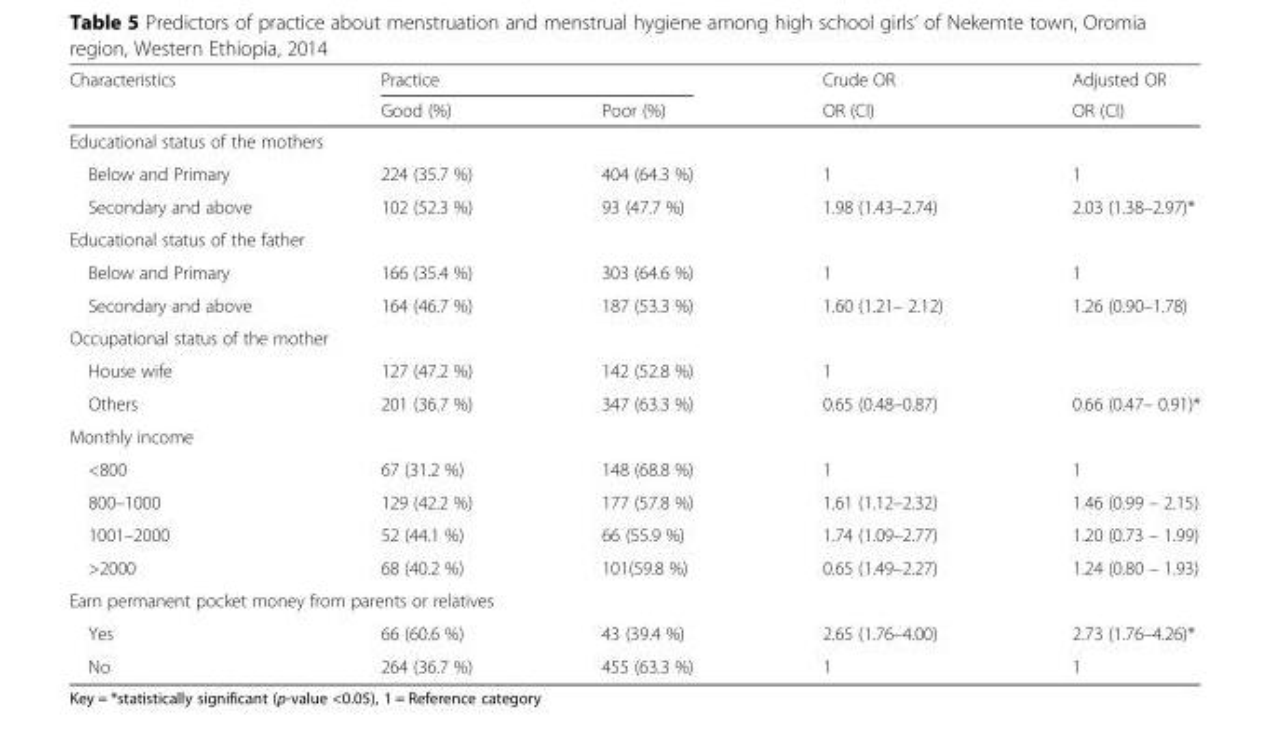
<table><thead><tr><td rowspan="2">Characteristics</td><td colspan="2">Practice</td><td rowspan="2">Crude OR OR (CI)</td><td rowspan="2">Adjusted OR OR (CI)</td></tr><tr><td>Good (%)</td><td>Poor (%)</td></tr></thead><tbody><tr><td colspan="5">Educational status of the mothers</td></tr><tr><td>Below and Primary</td><td>224 (35.7 %)</td><td>404 (64.3 %)</td><td>1</td><td>1</td></tr><tr><td>Secondary and above</td><td>102 (52.3 %)</td><td>93 (47.7 %)</td><td>1.98 (1.43–2.74)</td><td>2.03 (1.38–2.97)*</td></tr><tr><td colspan="5">Educational status of the father</td></tr><tr><td>Below and Primary</td><td>166 (35.4 %)</td><td>303 (64.6 %)</td><td>1</td><td>1</td></tr><tr><td>Secondary and above</td><td>164 (46.7 %)</td><td>187 (53.3 %)</td><td>1.60 (1.21– 2.12)</td><td>1.26 (0.90–1.78)</td></tr><tr><td colspan="5">Occupational status of the mother</td></tr><tr><td>House wife</td><td>127 (47.2 %)</td><td>142 (52.8 %)</td><td>1</td><td></td></tr><tr><td>Others</td><td>201 (36.7 %)</td><td>347 (63.3 %)</td><td>0.65 (0.48–0.87)</td><td>0.66 (0.47– 0.91)*</td></tr><tr><td colspan="5">Monthly income</td></tr><tr><td>&lt;800</td><td>67 (31.2 %)</td><td>148 (68.8 %)</td><td>1</td><td>1</td></tr><tr><td>800–1000</td><td>129 (42.2 %)</td><td>177 (57.8 %)</td><td>1.61 (1.12–2.32)</td><td>1.46 (0.99 – 2.15)</td></tr><tr><td>1001–2000</td><td>52 (44.1 %)</td><td>66 (55.9 %)</td><td>1.74 (1.09–2.77)</td><td>1.20 (0.73 – 1.99)</td></tr><tr><td>&gt;2000</td><td>68 (40.2 %)</td><td>101(59.8 %)</td><td>0.65 (1.49–2.27)</td><td>1.24 (0.80 – 1.93)</td></tr><tr><td colspan="5">Earn permanent pocket money from parents or relatives</td></tr><tr><td>Yes</td><td>66 (60.6 %)</td><td>43 (39.4 %)</td><td>2.65 (1.76–4.00)</td><td>2.73 (1.76–4.26)*</td></tr><tr><td>No</td><td>264 (36.7 %)</td><td>455 (63.3 %)</td><td>1</td><td>1</td></tr></tbody></table>